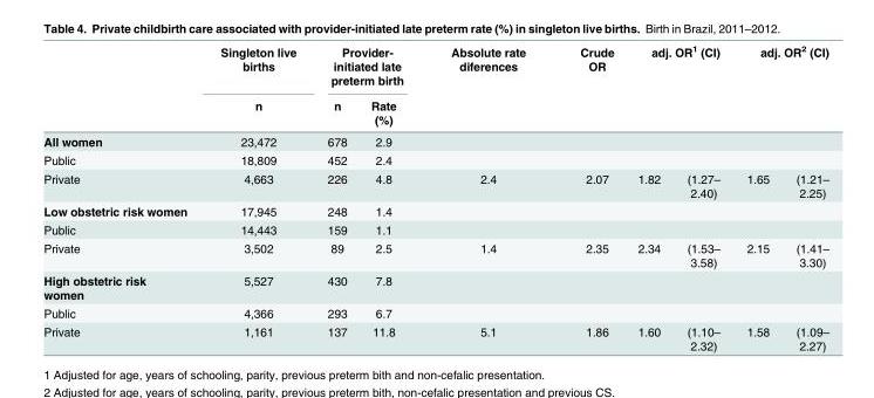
<table><thead><tr><td rowspan="3">All women</td><td rowspan="3">Singleton live births n 23,472</td><td colspan="2">Provider- initiated late preterm birth</td><td rowspan="3">Absolute rate diferences</td><td rowspan="3">Crude OR</td><td rowspan="2" colspan="2">adj. OR<sup>1</sup> (CI)</td><td rowspan="2" colspan="2">adj. OR<sup>2</sup> (CI)</td></tr><tr><td rowspan="2">n 678</td><td rowspan="2">Rate (%) 2.9</td></tr><tr><td></td><td></td><td></td><td></td></tr></thead><tbody><tr><td>Public</td><td>18,809</td><td>452</td><td>2.4</td><td></td><td></td><td></td><td></td><td></td><td></td></tr><tr><td>Private</td><td>4,663</td><td>226</td><td>4.8</td><td>2.4</td><td>2.07</td><td>1.82</td><td>(1.27– 2.40)</td><td>1.65</td><td>(1.21– 2.25)</td></tr><tr><td>Low obstetric risk women</td><td>17,945</td><td>248</td><td>1.4</td><td></td><td></td><td></td><td></td><td></td><td></td></tr><tr><td>Public</td><td>14,443</td><td>159</td><td>1.1</td><td></td><td></td><td></td><td></td><td></td><td></td></tr><tr><td>Private</td><td>3,502</td><td>89</td><td>2.5</td><td>1.4</td><td>2.35</td><td>2.34</td><td>(1.53– 3.58)</td><td>2.15</td><td>(1.41– 3.30)</td></tr><tr><td>High obstetric risk women</td><td>5,527</td><td>430</td><td>7.8</td><td></td><td></td><td></td><td></td><td></td><td></td></tr><tr><td>Public</td><td>4,366</td><td>293</td><td>6.7</td><td></td><td></td><td></td><td></td><td></td><td></td></tr><tr><td>Private</td><td>1,161</td><td>137</td><td>11.8</td><td>5.1</td><td>1.86</td><td>1.60</td><td>(1.10– 2.32)</td><td>1.58</td><td>(1.09– 2.27)</td></tr></tbody></table>